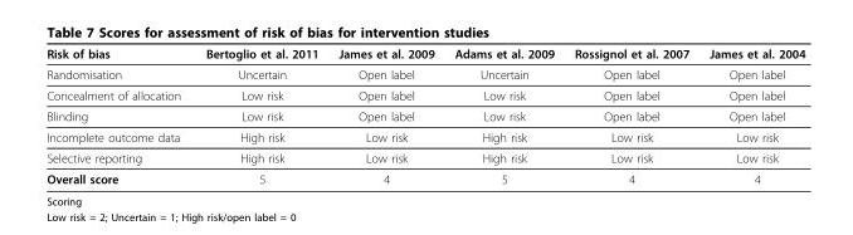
<table><thead><tr><td>Risk of bias</td><td>Bertoglio et al. 2011</td><td>James et al. 2009</td><td>Adams et al. 2009</td><td>Rossignol et al. 2007</td><td>James et al. 2004</td></tr></thead><tbody><tr><td>Randomisation</td><td>Uncertain</td><td>Open label</td><td>Uncertain</td><td>Open label</td><td>Open label</td></tr><tr><td>Concealment of allocation</td><td>Low risk</td><td>Open label</td><td>Low risk</td><td>Open label</td><td>Open label</td></tr><tr><td>Blinding</td><td>Low risk</td><td>Open label</td><td>Low risk</td><td>Open label</td><td>Open label</td></tr><tr><td>Incomplete outcome data</td><td>High risk</td><td>Low risk</td><td>High risk</td><td>Low risk</td><td>Low risk</td></tr><tr><td>Selective reporting</td><td>High risk</td><td>Low risk</td><td>High risk</td><td>Low risk</td><td>Low risk</td></tr><tr><td>Overall score</td><td>5</td><td>4</td><td>5</td><td>4</td><td>4</td></tr></tbody></table>